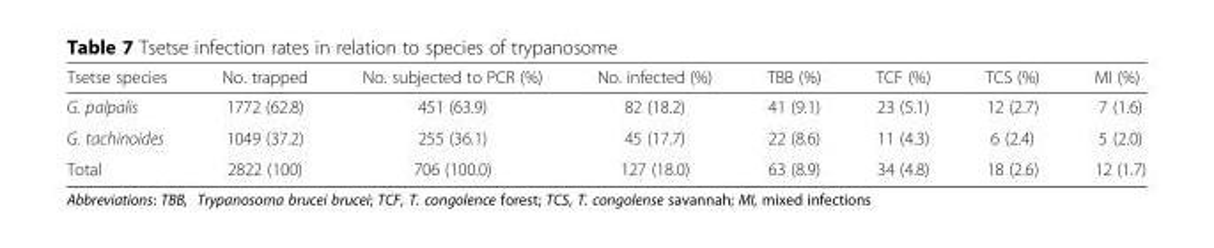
<table><thead><tr><td>Tsetse species</td><td>No. trapped</td><td>No. subjected to PCR (%)</td><td>No. infected (%)</td><td>TBB (%)</td><td>TCF (%)</td><td>TCS (%)</td><td>MI (%)</td></tr></thead><tbody><tr><td>G. palpalis</td><td>1772 (62.8)</td><td>451 (63.9)</td><td>82 (18.2)</td><td>41 (9.1)</td><td>23 (5.1)</td><td>12 (2.7)</td><td>7 (1.6)</td></tr><tr><td>G. tachinoides</td><td>1049 (37.2)</td><td>255 (36.1)</td><td>45 (17.7)</td><td>22 (8.6)</td><td>11 (4.3)</td><td>6 (2.4)</td><td>5 (2.0)</td></tr><tr><td>Total</td><td>2822 (100)</td><td>706 (100.0)</td><td>127 (18.0)</td><td>63 (8.9)</td><td>34 (4.8)</td><td>18 (2.6)</td><td>12 (1.7)</td></tr></tbody></table>